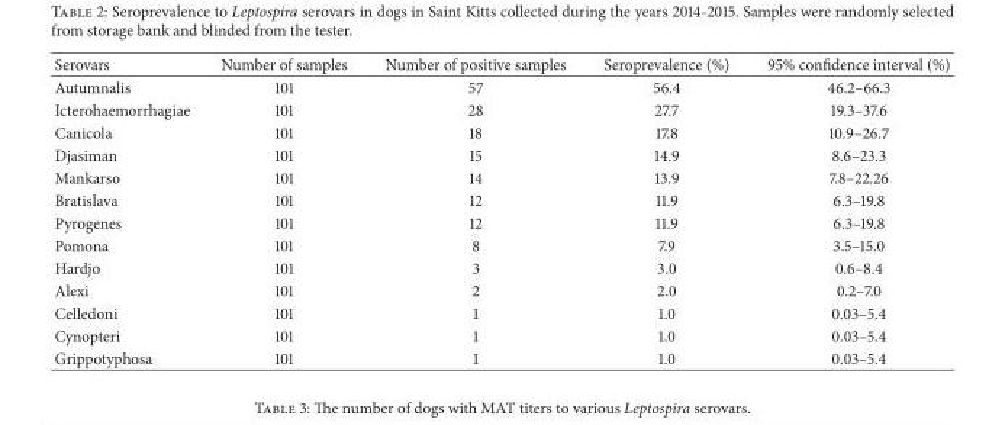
<table><thead><tr><td>Serovars</td><td>Number of samples</td><td>Number of positive samples</td><td>Seroprevalence (%)</td><td>95% confidence interval (%)</td></tr></thead><tbody><tr><td>Autumnalis</td><td>101</td><td>57</td><td>56.4</td><td>46.2–66.3</td></tr><tr><td>Icterohaemorrhagiae</td><td>101</td><td>28</td><td>27.7</td><td>19.3–37.6</td></tr><tr><td>Canicola</td><td>101</td><td>18</td><td>17.8</td><td>10.9–26.7</td></tr><tr><td>Djasiman</td><td>101</td><td>15</td><td>14.9</td><td>8.6–23.3</td></tr><tr><td>Mankarso</td><td>101</td><td>14</td><td>13.9</td><td>7.8–22.26</td></tr><tr><td>Bratislava</td><td>101</td><td>12</td><td>11.9</td><td>6.3–19.8</td></tr><tr><td>Pyrogenes</td><td>101</td><td>12</td><td>11.9</td><td>6.3–19.8</td></tr><tr><td>Pomona</td><td>101</td><td>8</td><td>7.9</td><td>3.5–15.0</td></tr><tr><td>Hardjo</td><td>101</td><td>3</td><td>3.0</td><td>0.6–8.4</td></tr><tr><td>Alexi</td><td>101</td><td>2</td><td>2.0</td><td>0.2–7.0</td></tr><tr><td>Celledoni</td><td>101</td><td>1</td><td>1.0</td><td>0.03–5.4</td></tr><tr><td>Cynopteri</td><td>101</td><td>1</td><td>1.0</td><td>0.03–5.4</td></tr><tr><td>Grippotyphosa</td><td>101</td><td>1</td><td>1.0</td><td>0.03–5.4</td></tr></tbody></table>